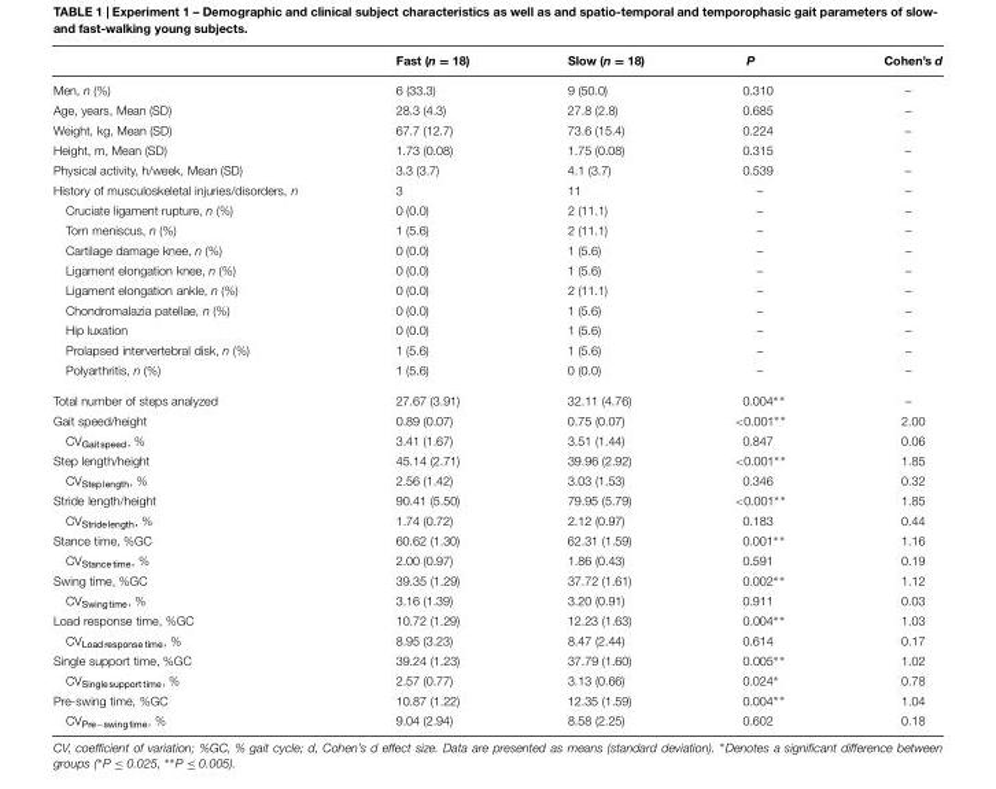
<table><thead><tr><td></td><td>Fast (n = 18)</td><td>Slow (n = 18)</td><td>P</td><td>Cohen’s d</td></tr></thead><tbody><tr><td>Men, n (%)</td><td>6 (33.3)</td><td>9 (50.0)</td><td>0.310</td><td>–</td></tr><tr><td>Age, years, Mean (SD)</td><td>28.3 (4.3)</td><td>27.8 (2.8)</td><td>0.685</td><td>–</td></tr><tr><td>Weight, kg, Mean (SD)</td><td>67.7 (12.7)</td><td>73.6 (15.4)</td><td>0.224</td><td>–</td></tr><tr><td>Height, m, Mean (SD)</td><td>1.73 (0.08)</td><td>1.75 (0.08)</td><td>0.315</td><td>–</td></tr><tr><td>Physical activity, h/week, Mean (SD)</td><td>3.3 (3.7)</td><td>4.1 (3.7)</td><td>0.539</td><td>–</td></tr><tr><td>History of musculoskeletal injuries/disorders, n</td><td>3</td><td>11</td><td>–</td><td>–</td></tr><tr><td>Cruciate ligament rupture, n (%)</td><td>0 (0.0)</td><td>2 (11.1)</td><td>–</td><td>–</td></tr><tr><td>Torn meniscus, n (%)</td><td>1 (5.6)</td><td>2 (11.1)</td><td>–</td><td>–</td></tr><tr><td>Cartilage damage knee, n (%)</td><td>0 (0.0)</td><td>1 (5.6)</td><td>–</td><td>–</td></tr><tr><td>Ligament elongation knee, n (%)</td><td>0 (0.0)</td><td>1 (5.6)</td><td>–</td><td>–</td></tr><tr><td>Ligament elongation ankle, n (%)</td><td>0 (0.0)</td><td>2 (11.1)</td><td>–</td><td>–</td></tr><tr><td>Chondromalazia patellae, n (%)</td><td>0 (0.0)</td><td>1 (5.6)</td><td>–</td><td>–</td></tr><tr><td>Hip luxation</td><td>0 (0.0)</td><td>1 (5.6)</td><td>–</td><td>–</td></tr><tr><td>Prolapsed intervertebral disk, n (%)</td><td>1 (5.6)</td><td>1 (5.6)</td><td>–</td><td>–</td></tr><tr><td>Polyarthritis, n (%)</td><td>1 (5.6)</td><td>0 (0.0)</td><td>–</td><td>–</td></tr><tr><td>Total number of steps analyzed</td><td>27.67 (3.91)</td><td>32.11 (4.76)</td><td>0.004∗ ∗</td><td>–</td></tr><tr><td>Gait speed/height</td><td>0.89 (0.07)</td><td>0.75 (0.07)</td><td>&lt;0.001∗ ∗</td><td>2.00</td></tr><tr><td>CV<sub>Gaitspeed</sub>, %</td><td>3.41 (1.67)</td><td>3.51 (1.44)</td><td>0.847</td><td>0.06</td></tr><tr><td>Step length/height</td><td>45.14 (2.71)</td><td>39.96 (2.92)</td><td>&lt;0.001∗ ∗</td><td>1.85</td></tr><tr><td>CV<sub>Step length</sub>, %</td><td>2.56 (1.42)</td><td>3.03 (1.53)</td><td>0.346</td><td>0.32</td></tr><tr><td>Stride length/height</td><td>90.41 (5.50)</td><td>79.95 (5.79)</td><td>&lt;0.001∗ ∗</td><td>1.85</td></tr><tr><td>CV<sub>Stridelength</sub>, %</td><td>1.74 (0.72)</td><td>2.12 (0.97)</td><td>0.183</td><td>0.44</td></tr><tr><td>Stance time, %GC</td><td>60.62 (1.30)</td><td>62.31 (1.59)</td><td>0.001∗ ∗</td><td>1.16</td></tr><tr><td>CV<sub>Stancetime</sub>, %</td><td>2.00 (0.97)</td><td>1.86 (0.43)</td><td>0.591</td><td>0.19</td></tr><tr><td>Swing time, %GC</td><td>39.35 (1.29)</td><td>37.72 (1.61)</td><td>0.002∗ ∗</td><td>1.12</td></tr><tr><td>CV<sub>Swingtime</sub>, %</td><td>3.16 (1.39)</td><td>3.20 (0.91)</td><td>0.911</td><td>0.03</td></tr><tr><td>Load response time, %GC</td><td>10.72 (1.29)</td><td>12.23 (1.63)</td><td>0.004∗ ∗</td><td>1.03</td></tr><tr><td>CV<sub>Load response time</sub>, %</td><td>8.95 (3.23)</td><td>8.47 (2.44)</td><td>0.614</td><td>0.17</td></tr><tr><td>Single support time, %GC</td><td>39.24 (1.23)</td><td>37.79 (1.60)</td><td>0.005∗ ∗</td><td>1.02</td></tr><tr><td>CV<sub>Singlesupport time</sub>, %</td><td>2.57 (0.77)</td><td>3.13 (0.66)</td><td>0.024∗</td><td>0.78</td></tr><tr><td>Pre-swing time, %GC</td><td>10.87 (1.22)</td><td>12.35 (1.59)</td><td>0.004∗ ∗</td><td>1.04</td></tr><tr><td>CV<sub>Pre−swingtime</sub>, %</td><td>9.04 (2.94)</td><td>8.58 (2.25)</td><td>0.602</td><td>0.18</td></tr></tbody></table>